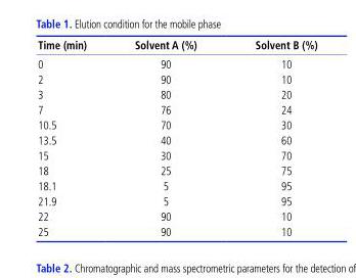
<table><thead><tr><td>Time (min)</td><td>Solvent A (%)</td><td>Solvent B (%)</td></tr></thead><tbody><tr><td>0</td><td>90</td><td>10</td></tr><tr><td>2</td><td>90</td><td>10</td></tr><tr><td>3</td><td>80</td><td>20</td></tr><tr><td>7</td><td>76</td><td>24</td></tr><tr><td>10.5</td><td>70</td><td>30</td></tr><tr><td>13.5</td><td>40</td><td>60</td></tr><tr><td>15</td><td>30</td><td>70</td></tr><tr><td>18</td><td>25</td><td>75</td></tr><tr><td>18.1</td><td>5</td><td>95</td></tr><tr><td>21.9</td><td>5</td><td>95</td></tr><tr><td>22</td><td>90</td><td>10</td></tr><tr><td>25</td><td>90</td><td>10</td></tr></tbody></table>